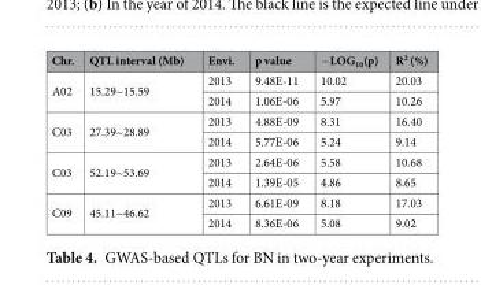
<table><thead><tr><td>Chr.</td><td>QTL interval (Mb)</td><td>Envi.</td><td>p value</td><td>−LOG<sub>10</sub>(p)</td><td>R<sup>2</sup> (%)</td></tr></thead><tbody><tr><td rowspan="2">A02</td><td rowspan="2">15.29~15.59</td><td>2013</td><td>9.48E-11</td><td>10.02</td><td>20.03</td></tr><tr><td>2014</td><td>1.06E-06</td><td>5.97</td><td>10.26</td></tr><tr><td rowspan="2">C03</td><td rowspan="2">27.39~28.89</td><td>2013</td><td>4.88E-09</td><td>8.31</td><td>16.40</td></tr><tr><td>2014</td><td>5.77E-06</td><td>5.24</td><td>9.14</td></tr><tr><td rowspan="2">C03</td><td rowspan="2">52.19~53.69</td><td>2013</td><td>2.64E-06</td><td>5.58</td><td>10.68</td></tr><tr><td>2014</td><td>1.39E-05</td><td>4.86</td><td>8.65</td></tr><tr><td rowspan="2">C09</td><td rowspan="2">45.11~46.62</td><td>2013</td><td>6.61E-09</td><td>8.18</td><td>17.03</td></tr><tr><td>2014</td><td>8.36E-06</td><td>5.08</td><td>9.02</td></tr></tbody></table>